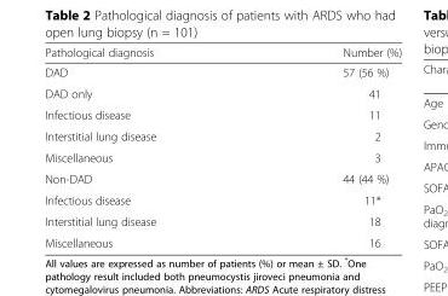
<table><thead><tr><td>Pathological diagnosis</td><td>Number (%)</td></tr></thead><tbody><tr><td>DAD</td><td>57 (56 %)</td></tr><tr><td>DAD only</td><td>41</td></tr><tr><td>Infectious disease</td><td>11</td></tr><tr><td>Interstitial lung disease</td><td>2</td></tr><tr><td>Miscellaneous</td><td>3</td></tr><tr><td>Non-DAD</td><td>44 (44 %)</td></tr><tr><td>Infectious disease</td><td>11*</td></tr><tr><td>Interstitial lung disease</td><td>18</td></tr><tr><td>Miscellaneous</td><td>16</td></tr></tbody></table>